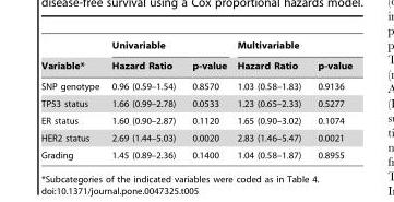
<table><thead><tr><td rowspan="2">Variable*</td><td colspan="2">Univariable</td><td colspan="2">Multivariable</td></tr><tr><td>Hazard Ratio</td><td>p-value</td><td>Hazard Ratio</td><td>p-value</td></tr></thead><tbody><tr><td>SNP genotype</td><td>0.96 (0.59–1.54)</td><td>0.8570</td><td>1.03 (0.58–1.83)</td><td>0.9136</td></tr><tr><td>TP53 status</td><td>1.66 (0.99–2.78)</td><td>0.0533</td><td>1.23 (0.65–2.33)</td><td>0.5277</td></tr><tr><td>ER status</td><td>1.60 (0.90–2.87)</td><td>0.1120</td><td>1.65 (0.90–3.02)</td><td>0.1074</td></tr><tr><td>HER2 status</td><td>2.69 (1.44–5.03)</td><td>0.0020</td><td>2.83 (1.46–5.47)</td><td>0.0021</td></tr><tr><td>Grading</td><td>1.45 (0.89–2.36)</td><td>0.1400</td><td>1.04 (0.58–1.87)</td><td>0.8955</td></tr></tbody></table>